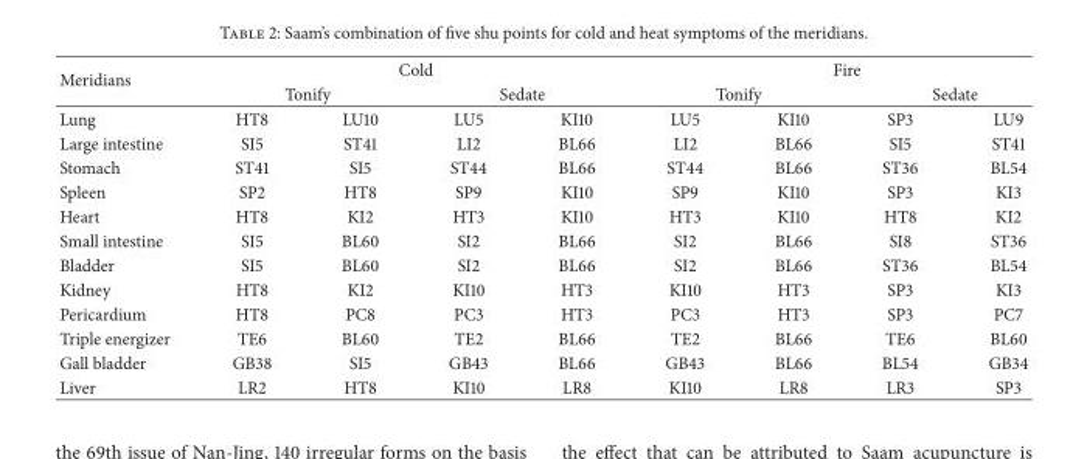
<table><thead><tr><td rowspan="3">Meridians Lung</td><td colspan="4">Cold</td><td colspan="4">Fire</td></tr><tr><td colspan="2">Tonify</td><td colspan="2">Sedate</td><td colspan="2">Tonify</td><td colspan="2">Sedate</td></tr><tr><td>HT8</td><td>LU10</td><td>LU5</td><td>KI10</td><td>LU5</td><td>KI10</td><td>SP3</td><td>LU9</td></tr></thead><tbody><tr><td>Large intestine</td><td>SI5</td><td>ST41</td><td>LI2</td><td>BL66</td><td>LI2</td><td>BL66</td><td>SI5</td><td>ST41</td></tr><tr><td>Stomach</td><td>ST41</td><td>SI5</td><td>ST44</td><td>BL66</td><td>ST44</td><td>BL66</td><td>ST36</td><td>BL54</td></tr><tr><td>Spleen</td><td>SP2</td><td>HT8</td><td>SP9</td><td>KI10</td><td>SP9</td><td>KI10</td><td>SP3</td><td>KI3</td></tr><tr><td>Heart</td><td>HT8</td><td>KI2</td><td>HT3</td><td>KI10</td><td>HT3</td><td>KI10</td><td>HT8</td><td>KI2</td></tr><tr><td>Small intestine</td><td>SI5</td><td>BL60</td><td>SI2</td><td>BL66</td><td>SI2</td><td>BL66</td><td>SI8</td><td>ST36</td></tr><tr><td>Bladder</td><td>SI5</td><td>BL60</td><td>SI2</td><td>BL66</td><td>SI2</td><td>BL66</td><td>ST36</td><td>BL54</td></tr><tr><td>Kidney</td><td>HT8</td><td>KI2</td><td>KI10</td><td>HT3</td><td>KI10</td><td>HT3</td><td>SP3</td><td>KI3</td></tr><tr><td>Pericardium</td><td>HT8</td><td>PC8</td><td>PC3</td><td>HT3</td><td>PC3</td><td>HT3</td><td>SP3</td><td>PC7</td></tr><tr><td>Triple energizer</td><td>TE6</td><td>BL60</td><td>TE2</td><td>BL66</td><td>TE2</td><td>BL66</td><td>TE6</td><td>BL60</td></tr><tr><td>Gall bladder</td><td>GB38</td><td>SI5</td><td>GB43</td><td>BL66</td><td>GB43</td><td>BL66</td><td>BL54</td><td>GB34</td></tr><tr><td>Liver</td><td>LR2</td><td>HT8</td><td>KI10</td><td>LR8</td><td>KI10</td><td>LR8</td><td>LR3</td><td>SP3</td></tr></tbody></table>